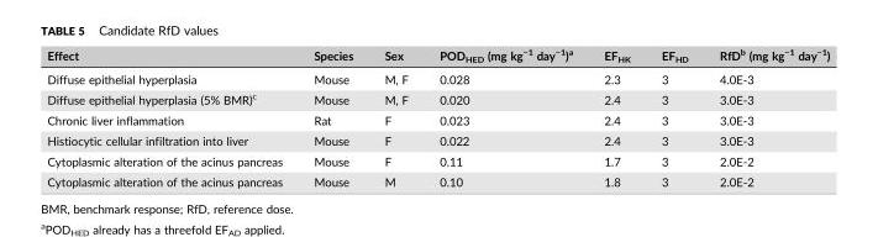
<table><thead><tr><td>Effect</td><td>Species</td><td>Sex</td><td>POD<sub>HED</sub> (mg kg<sup>−1</sup> day<sup>−1</sup>)<sup>a</sup></td><td>EF<sub>HK</sub></td><td>EF<sub>HD</sub></td><td>RfD<sup>b</sup> (mg kg<sup>−1</sup> day<sup>−1</sup>)</td></tr></thead><tbody><tr><td>Diffuse epithelial hyperplasia</td><td>Mouse</td><td>M, F</td><td>0.028</td><td>2.3</td><td>3</td><td>4.0E‐3</td></tr><tr><td>Diffuse epithelial hyperplasia (5% BMR)<sup>c</sup></td><td>Mouse</td><td>M, F</td><td>0.020</td><td>2.4</td><td>3</td><td>3.0E‐3</td></tr><tr><td>Chronic liver inflammation</td><td>Rat</td><td>F</td><td>0.023</td><td>2.4</td><td>3</td><td>3.0E‐3</td></tr><tr><td>Histiocytic cellular infiltration into liver</td><td>Mouse</td><td>F</td><td>0.022</td><td>2.4</td><td>3</td><td>3.0E‐3</td></tr><tr><td>Cytoplasmic alteration of the acinus pancreas</td><td>Mouse</td><td>F</td><td>0.11</td><td>1.7</td><td>3</td><td>2.0E‐2</td></tr><tr><td>Cytoplasmic alteration of the acinus pancreas</td><td>Mouse</td><td>M</td><td>0.10</td><td>1.8</td><td>3</td><td>2.0E‐2</td></tr></tbody></table>